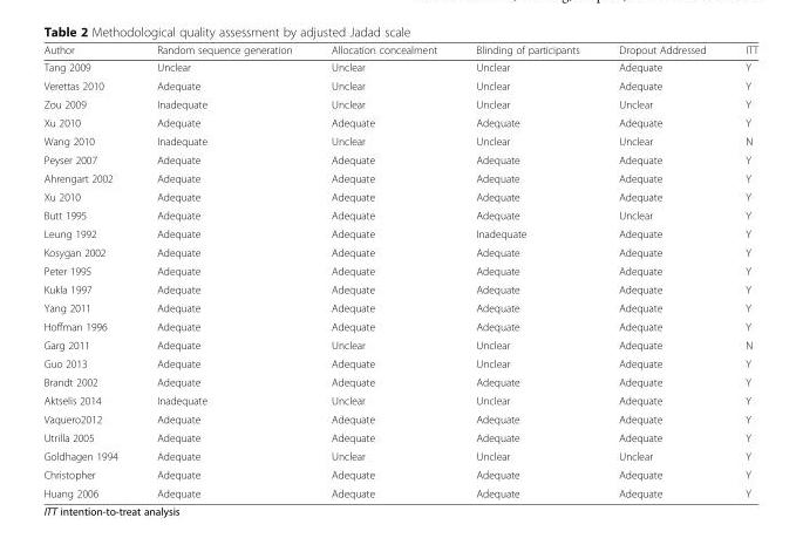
<table><thead><tr><td>Author</td><td>Random sequence generation</td><td>Allocation concealment</td><td>Blinding of participants</td><td>Dropout Addressed</td><td>ITT</td></tr></thead><tbody><tr><td>Tang 2009</td><td>Unclear</td><td>Unclear</td><td>Unclear</td><td>Adequate</td><td>Y</td></tr><tr><td>Verettas 2010</td><td>Adequate</td><td>Unclear</td><td>Unclear</td><td>Adequate</td><td>Y</td></tr><tr><td>Zou 2009</td><td>Inadequate</td><td>Unclear</td><td>Unclear</td><td>Unclear</td><td>Y</td></tr><tr><td>Xu 2010</td><td>Adequate</td><td>Adequate</td><td>Adequate</td><td>Adequate</td><td>Y</td></tr><tr><td>Wang 2010</td><td>Inadequate</td><td>Unclear</td><td>Unclear</td><td>Unclear</td><td>N</td></tr><tr><td>Peyser 2007</td><td>Adequate</td><td>Adequate</td><td>Adequate</td><td>Adequate</td><td>Y</td></tr><tr><td>Ahrengart 2002</td><td>Adequate</td><td>Adequate</td><td>Adequate</td><td>Adequate</td><td>Y</td></tr><tr><td>Xu 2010</td><td>Adequate</td><td>Adequate</td><td>Adequate</td><td>Adequate</td><td>Y</td></tr><tr><td>Butt 1995</td><td>Adequate</td><td>Adequate</td><td>Adequate</td><td>Unclear</td><td>Y</td></tr><tr><td>Leung 1992</td><td>Adequate</td><td>Adequate</td><td>Inadequate</td><td>Adequate</td><td>Y</td></tr><tr><td>Kosygan 2002</td><td>Adequate</td><td>Adequate</td><td>Adequate</td><td>Adequate</td><td>Y</td></tr><tr><td>Peter 1995</td><td>Adequate</td><td>Adequate</td><td>Adequate</td><td>Adequate</td><td>Y</td></tr><tr><td>Kukla 1997</td><td>Adequate</td><td>Adequate</td><td>Adequate</td><td>Adequate</td><td>Y</td></tr><tr><td>Yang 2011</td><td>Adequate</td><td>Adequate</td><td>Adequate</td><td>Adequate</td><td>Y</td></tr><tr><td>Hoffman 1996</td><td>Adequate</td><td>Adequate</td><td>Adequate</td><td>Adequate</td><td>Y</td></tr><tr><td>Garg 2011</td><td>Adequate</td><td>Unclear</td><td>Unclear</td><td>Adequate</td><td>N</td></tr><tr><td>Guo 2013</td><td>Adequate</td><td>Adequate</td><td>Unclear</td><td>Adequate</td><td>Y</td></tr><tr><td>Brandt 2002</td><td>Adequate</td><td>Adequate</td><td>Adequate</td><td>Adequate</td><td>Y</td></tr><tr><td>Aktselis 2014</td><td>Inadequate</td><td>Unclear</td><td>Unclear</td><td>Adequate</td><td>Y</td></tr><tr><td>Vaquero2012</td><td>Adequate</td><td>Adequate</td><td>Adequate</td><td>Adequate</td><td>Y</td></tr><tr><td>Utrilla 2005</td><td>Adequate</td><td>Adequate</td><td>Adequate</td><td>Adequate</td><td>Y</td></tr><tr><td>Goldhagen 1994</td><td>Adequate</td><td>Unclear</td><td>Unclear</td><td>Unclear</td><td>Y</td></tr><tr><td>Christopher</td><td>Adequate</td><td>Adequate</td><td>Adequate</td><td>Adequate</td><td>Y</td></tr><tr><td>Huang 2006</td><td>Adequate</td><td>Adequate</td><td>Adequate</td><td>Adequate</td><td>Y</td></tr></tbody></table>